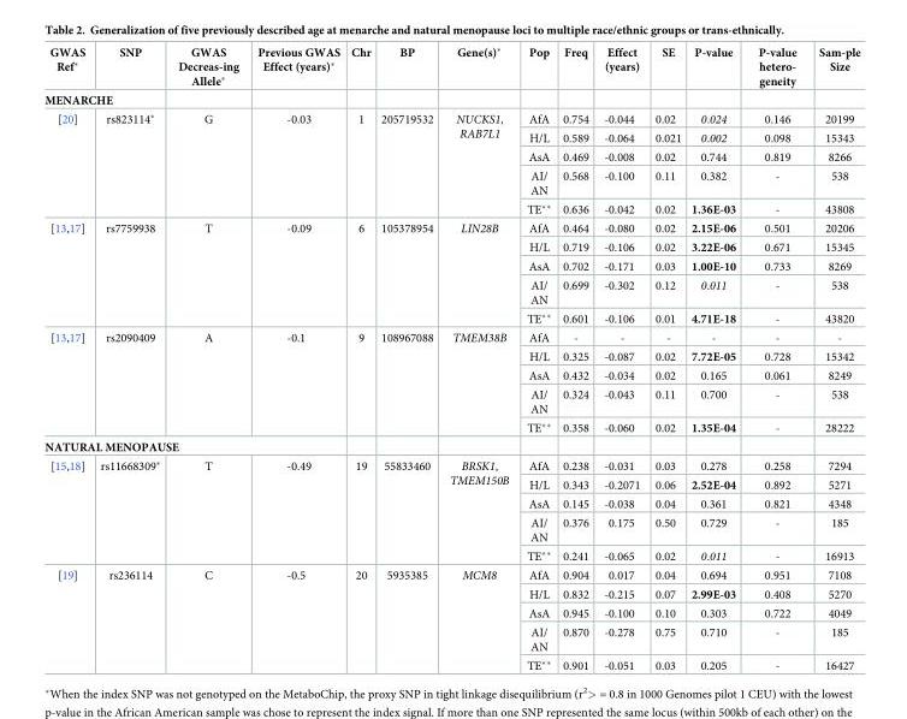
<table><thead><tr><td>GWAS Ref*</td><td>SNP</td><td>GWAS Decreas-ing Allele*</td><td>Previous GWAS Effect (years)*</td><td>Chr</td><td>BP</td><td>Gene(s)*</td><td>Pop</td><td>Freq</td><td>Effect (years)</td><td>SE</td><td>P-value</td><td>P-value hetero- geneity</td><td>Sam-ple Size</td></tr></thead><tbody><tr><td colspan="14">MENARCHE</td></tr><tr><td rowspan="5">[20]</td><td rowspan="5">rs823114*</td><td rowspan="5">G</td><td rowspan="5">-0.03</td><td rowspan="5">1</td><td rowspan="5">205719532</td><td rowspan="5">NUCKS1, RAB7L1</td><td>AfA</td><td>0.754</td><td>-0.044</td><td>0.02</td><td>0.024</td><td>0.146</td><td>20199</td></tr><tr><td>H/L</td><td>0.589</td><td>-0.064</td><td>0.021</td><td>0.002</td><td>0.098</td><td>15343</td></tr><tr><td>AsA</td><td>0.469</td><td>-0.008</td><td>0.02</td><td>0.744</td><td>0.819</td><td>8266</td></tr><tr><td>AI/ AN</td><td>0.568</td><td>-0.100</td><td>0.11</td><td>0.382</td><td>-</td><td>538</td></tr><tr><td>TE**</td><td>0.636</td><td>-0.042</td><td>0.02</td><td>1.36E-03</td><td>-</td><td>43808</td></tr><tr><td rowspan="5">[13,17]</td><td rowspan="5">rs7759938</td><td rowspan="5">T</td><td rowspan="5">-0.09</td><td rowspan="5">6</td><td rowspan="5">105378954</td><td rowspan="5">LIN28B</td><td>AfA</td><td>0.464</td><td>-0.080</td><td>0.02</td><td>2.15E-06</td><td>0.501</td><td>20206</td></tr><tr><td>H/L</td><td>0.719</td><td>-0.106</td><td>0.02</td><td>3.22E-06</td><td>0.671</td><td>15345</td></tr><tr><td>AsA</td><td>0.702</td><td>-0.171</td><td>0.03</td><td>1.00E-10</td><td>0.733</td><td>8269</td></tr><tr><td>AI/ AN</td><td>0.699</td><td>-0.302</td><td>0.12</td><td>0.011</td><td>-</td><td>538</td></tr><tr><td>TE**</td><td>0.601</td><td>-0.106</td><td>0.01</td><td>4.71E-18</td><td>-</td><td>43820</td></tr><tr><td rowspan="5">[13,17]</td><td rowspan="5">rs2090409</td><td rowspan="5">A</td><td rowspan="5">-0.1</td><td rowspan="5">9</td><td rowspan="5">108967088</td><td rowspan="5">TMEM38B</td><td>AfA</td><td>-</td><td>-</td><td>-</td><td>-</td><td>-</td><td>-</td></tr><tr><td>H/L</td><td>0.325</td><td>-0.087</td><td>0.02</td><td>7.72E-05</td><td>0.728</td><td>15342</td></tr><tr><td>AsA</td><td>0.432</td><td>-0.034</td><td>0.02</td><td>0.165</td><td>0.061</td><td>8249</td></tr><tr><td>AI/ AN</td><td>0.324</td><td>-0.043</td><td>0.11</td><td>0.700</td><td>-</td><td>538</td></tr><tr><td>TE**</td><td>0.358</td><td>-0.060</td><td>0.02</td><td>1.35E-04</td><td>-</td><td>28222</td></tr><tr><td colspan="14">NATURAL MENOPAUSE</td></tr><tr><td rowspan="5">[15,18]</td><td rowspan="5">rs11668309*</td><td rowspan="5">T</td><td rowspan="5">-0.49</td><td rowspan="5">19</td><td rowspan="5">55833460</td><td rowspan="5">BRSK1, TMEM150B</td><td>AfA</td><td>0.238</td><td>-0.031</td><td>0.03</td><td>0.278</td><td>0.258</td><td>7294</td></tr><tr><td>H/L</td><td>0.343</td><td>-0.2071</td><td>0.06</td><td>2.52E-04</td><td>0.892</td><td>5271</td></tr><tr><td>AsA</td><td>0.145</td><td>-0.038</td><td>0.04</td><td>0.361</td><td>0.821</td><td>4348</td></tr><tr><td>AI/ AN</td><td>0.376</td><td>0.175</td><td>0.50</td><td>0.729</td><td>-</td><td>185</td></tr><tr><td>TE**</td><td>0.241</td><td>-0.065</td><td>0.02</td><td>0.011</td><td>-</td><td>16913</td></tr><tr><td rowspan="5">[19]</td><td rowspan="5">rs236114</td><td rowspan="5">C</td><td rowspan="5">-0.5</td><td rowspan="5">20</td><td rowspan="5">5935385</td><td rowspan="5">MCM8</td><td>AfA</td><td>0.904</td><td>0.017</td><td>0.04</td><td>0.694</td><td>0.951</td><td>7108</td></tr><tr><td>H/L</td><td>0.832</td><td>-0.215</td><td>0.07</td><td>2.99E-03</td><td>0.408</td><td>5270</td></tr><tr><td>AsA</td><td>0.945</td><td>-0.100</td><td>0.10</td><td>0.303</td><td>0.722</td><td>4049</td></tr><tr><td>AI/ AN</td><td>0.870</td><td>-0.278</td><td>0.75</td><td>0.710</td><td>-</td><td>185</td></tr><tr><td>TE**</td><td>0.901</td><td>-0.051</td><td>0.03</td><td>0.205</td><td>-</td><td>16427</td></tr></tbody></table>